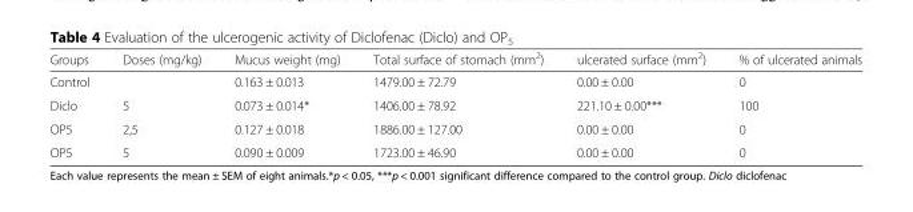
<table><thead><tr><td>Groups</td><td>Doses (mg/kg)</td><td>Mucus weight (mg)</td><td>Total surface of stomach (mm<sup>2</sup>)</td><td>ulcerated surface (mm<sup>2</sup>)</td><td>% of ulcerated animals</td></tr></thead><tbody><tr><td>Control</td><td></td><td>0.163 ± 0.013</td><td>1479.00 ± 72.79</td><td>0.00 ± 0.00</td><td>0</td></tr><tr><td>Diclo</td><td>5</td><td>0.073 ± 0.014*</td><td>1406.00 ± 78.92</td><td>221.10 ± 0.00***</td><td>100</td></tr><tr><td>OP5</td><td>2,5</td><td>0.127 ± 0.018</td><td>1886.00 ± 127.00</td><td>0.00 ± 0.00</td><td>0</td></tr><tr><td>OP5</td><td>5</td><td>0.090 ± 0.009</td><td>1723.00 ± 46.90</td><td>0.00 ± 0.00</td><td>0</td></tr></tbody></table>